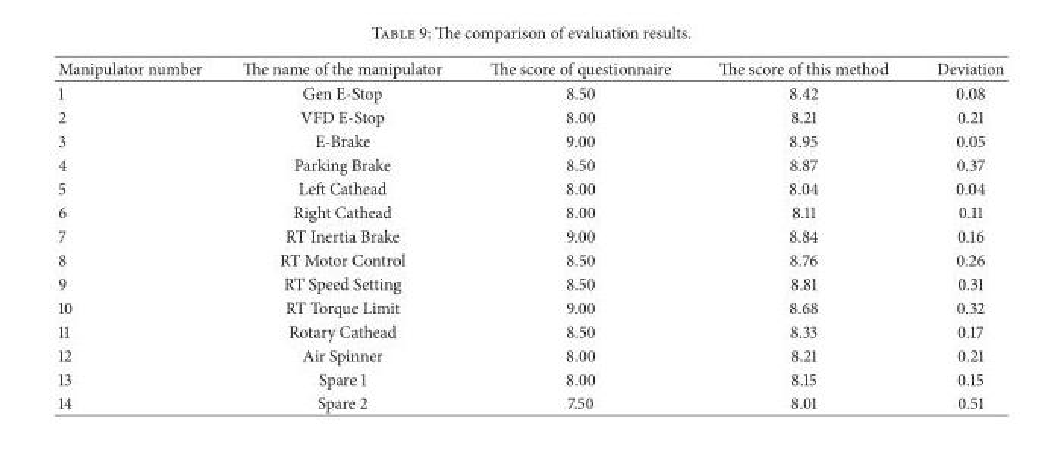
<table><thead><tr><td>Manipulator number</td><td>The name of the manipulator</td><td>The score of questionnaire</td><td>The score of this method</td><td>Deviation</td></tr></thead><tbody><tr><td>1</td><td>Gen E-Stop</td><td>8.50</td><td>8.42</td><td>0.08</td></tr><tr><td>2</td><td>VFD E-Stop</td><td>8.00</td><td>8.21</td><td>0.21</td></tr><tr><td>3</td><td>E-Brake</td><td>9.00</td><td>8.95</td><td>0.05</td></tr><tr><td>4</td><td>Parking Brake</td><td>8.50</td><td>8.87</td><td>0.37</td></tr><tr><td>5</td><td>Left Cathead</td><td>8.00</td><td>8.04</td><td>0.04</td></tr><tr><td>6</td><td>Right Cathead</td><td>8.00</td><td>8.11</td><td>0.11</td></tr><tr><td>7</td><td>RT Inertia Brake</td><td>9.00</td><td>8.84</td><td>0.16</td></tr><tr><td>8</td><td>RT Motor Control</td><td>8.50</td><td>8.76</td><td>0.26</td></tr><tr><td>9</td><td>RT Speed Setting</td><td>8.50</td><td>8.81</td><td>0.31</td></tr><tr><td>10</td><td>RT Torque Limit</td><td>9.00</td><td>8.68</td><td>0.32</td></tr><tr><td>11</td><td>Rotary Cathead</td><td>8.50</td><td>8.33</td><td>0.17</td></tr><tr><td>12</td><td>Air Spinner</td><td>8.00</td><td>8.21</td><td>0.21</td></tr><tr><td>13</td><td>Spare 1</td><td>8.00</td><td>8.15</td><td>0.15</td></tr><tr><td>14</td><td>Spare 2</td><td>7.50</td><td>8.01</td><td>0.51</td></tr></tbody></table>